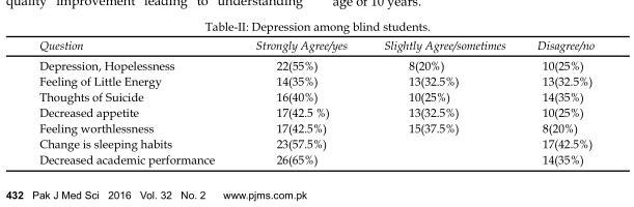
<table><thead><tr><td>Question</td><td>Strongly Agree/yes</td><td>Slightly Agree/sometimes</td><td>Disagree/no</td></tr></thead><tbody><tr><td>Depression, Hopelessness</td><td>22(55%)</td><td>8(20%)</td><td>10(25%)</td></tr><tr><td>Feeling of Little Energy</td><td>14(35%)</td><td>13(32.5%)</td><td>13(32.5%)</td></tr><tr><td>Thoughts of Suicide</td><td>16(40%)</td><td>10(25%)</td><td>14(35%)</td></tr><tr><td>Decreased appetite</td><td>17(42.5 %)</td><td>13(32.5%)</td><td>10(25%)</td></tr><tr><td>Feeling worthlessness</td><td>17(42.5%)</td><td>15(37.5%)</td><td>8(20%)</td></tr><tr><td>Change is sleeping habits</td><td>23(57.5%)</td><td></td><td>17(42.5%)</td></tr><tr><td>Decreased academic performance</td><td>26(65%)</td><td></td><td>14(35%)</td></tr></tbody></table>